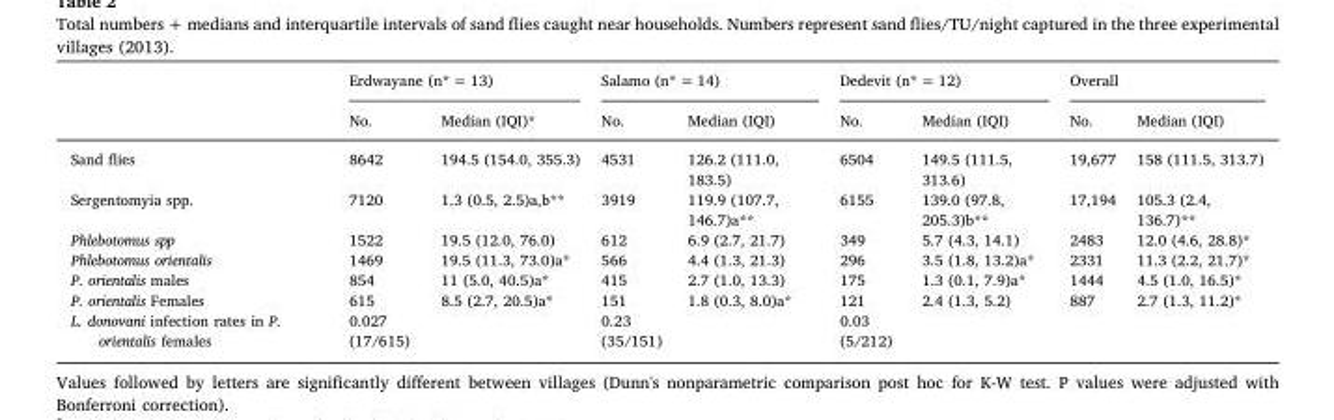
<table><thead><tr><td rowspan="2"></td><td colspan="2">Erdwayane (n* = 13)</td><td colspan="2">Salamo (n* = 14)</td><td colspan="2">Dedevit (n* = 12)</td><td colspan="2">Overall</td></tr><tr><td>No.</td><td>Median (IQI)*</td><td>No.</td><td>Median (IQI)</td><td>No.</td><td>Median (IQI)</td><td>No.</td><td>Median (IQI)</td></tr></thead><tbody><tr><td>Sand flies</td><td>8642</td><td>194.5 (154.0, 355.3)</td><td>4531</td><td>126.2 (111.0, 183.5)</td><td>6504</td><td>149.5 (111.5, 313.6)</td><td>19,677</td><td>158 (111.5, 313.7)</td></tr><tr><td>Sergentomyia spp.</td><td>7120</td><td>1.3 (0.5, 2.5)a,b**</td><td>3919</td><td>119.9 (107.7, 146.7)a**</td><td>6155</td><td>139.0 (97.8, 205.3)b**</td><td>17,194</td><td>105.3 (2.4, 136.7)**</td></tr><tr><td>Phlebotomus spp</td><td>1522</td><td>19.5 (12.0, 76.0)</td><td>612</td><td>6.9 (2.7, 21.7)</td><td>349</td><td>5.7 (4.3, 14.1)</td><td>2483</td><td>12.0 (4.6, 28.8)*</td></tr><tr><td>Phlebotomus orientalis</td><td>1469</td><td>19.5 (11.3, 73.0)a*</td><td>566</td><td>4.4 (1.3, 21.3)</td><td>296</td><td>3.5 (1.8, 13.2)a*</td><td>2331</td><td>11.3 (2.2, 21.7)*</td></tr><tr><td>P. orientalis males</td><td>854</td><td>11 (5.0, 40.5)a*</td><td>415</td><td>2.7 (1.0, 13.3)</td><td>175</td><td>1.3 (0.1, 7.9)a*</td><td>1444</td><td>4.5 (1.0, 16.5)*</td></tr><tr><td>P. orientalis Females</td><td>615</td><td>8.5 (2.7, 20.5)a*</td><td>151</td><td>1.8 (0.3, 8.0)a*</td><td>121</td><td>2.4 (1.3, 5.2)</td><td>887</td><td>2.7 (1.3, 11.2)*</td></tr><tr><td>L. donovani infection rates in P. orientalis females</td><td>0.027 (17/615)</td><td></td><td>0.23 (35/151)</td><td></td><td>0.03 (5/212)</td><td></td><td></td><td></td></tr></tbody></table>